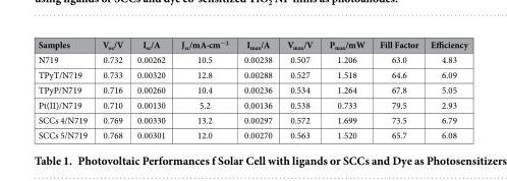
<table><thead><tr><td>Samples</td><td>V<sub>oc</sub>/V</td><td>I<sub>sc</sub>/A</td><td>J<sub>sc</sub>/mA·cm<sup>−2</sup></td><td>I<sub>max</sub>/A</td><td>V<sub>max</sub>/V</td><td>P<sub>max</sub>/mW</td><td>Fill Factor</td><td>Efficiency</td></tr></thead><tbody><tr><td>N719</td><td>0.732</td><td>0.00262</td><td>10.5</td><td>0.00238</td><td>0.507</td><td>1.206</td><td>63.0</td><td>4.83</td></tr><tr><td>TPyT/N719</td><td>0.733</td><td>0.00320</td><td>12.8</td><td>0.00288</td><td>0.527</td><td>1.518</td><td>64.6</td><td>6.09</td></tr><tr><td>TPyP/N719</td><td>0.716</td><td>0.00260</td><td>10.4</td><td>0.00236</td><td>0.534</td><td>1.264</td><td>67.8</td><td>5.05</td></tr><tr><td>Pt(II)/N719</td><td>0.710</td><td>0.00130</td><td>5.2</td><td>0.00136</td><td>0.538</td><td>0.733</td><td>79.5</td><td>2.93</td></tr><tr><td>SCCs 4/N719</td><td>0.769</td><td>0.00330</td><td>13.2</td><td>0.00297</td><td>0.572</td><td>1.699</td><td>73.5</td><td>6.79</td></tr><tr><td>SCCs 5/N719</td><td>0.768</td><td>0.00301</td><td>12.0</td><td>0.00270</td><td>0.563</td><td>1.520</td><td>65.7</td><td>6.08</td></tr></tbody></table>